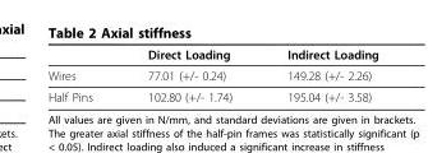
<table><thead><tr><td></td><td>Direct Loading</td><td>Indirect Loading</td></tr></thead><tbody><tr><td>Wires</td><td>77.01 (+/- 0.24)</td><td>149.28 (+/- 2.26)</td></tr><tr><td>Half Pins</td><td>102.80 (+/- 1.74)</td><td>195.04 (+/- 3.58)</td></tr></tbody></table>